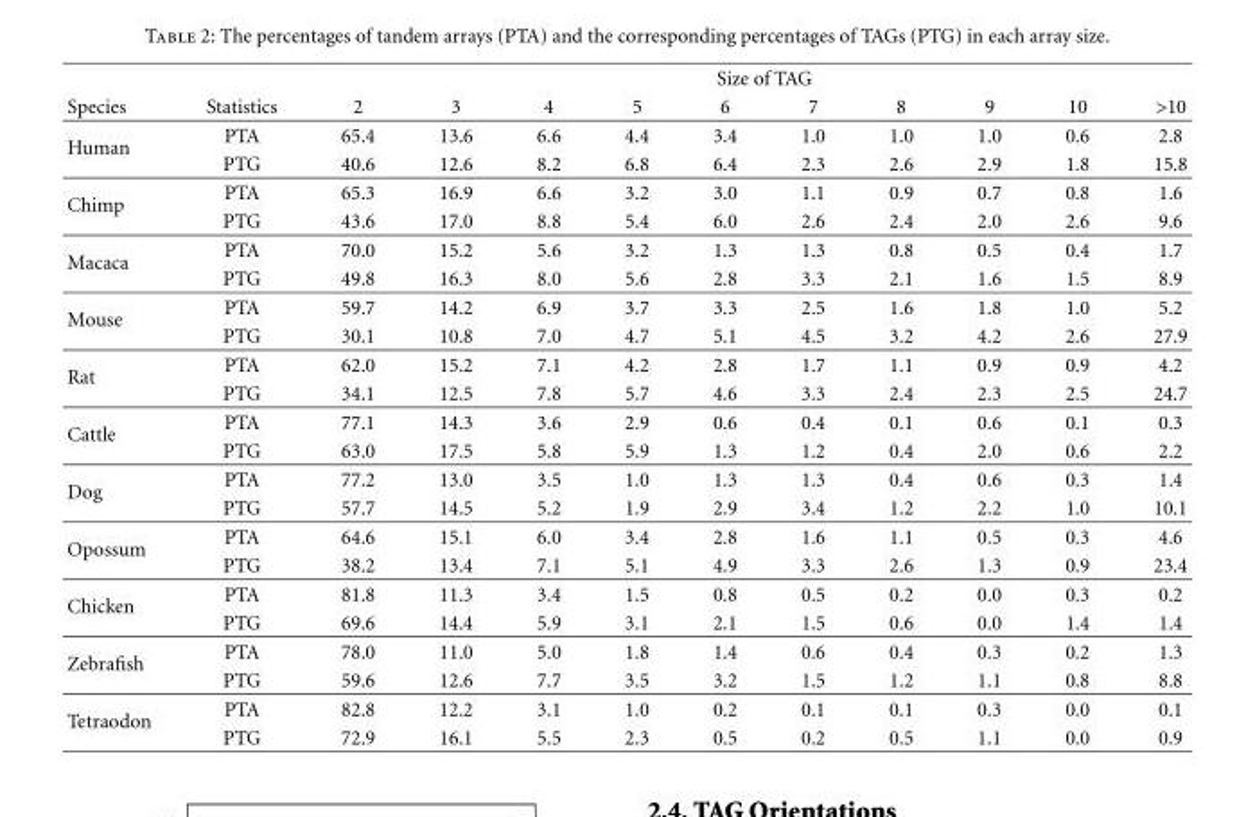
<table><thead><tr><td rowspan="2">Species</td><td rowspan="2">Statistics</td><td colspan="10">Size of TAG</td></tr><tr><td>2</td><td>3</td><td>4</td><td>5</td><td>6</td><td>7</td><td>8</td><td>9</td><td>10</td><td>&gt;10</td></tr></thead><tbody><tr><td rowspan="2">Human</td><td>PTA</td><td>65.4</td><td>13.6</td><td>6.6</td><td>4.4</td><td>3.4</td><td>1.0</td><td>1.0</td><td>1.0</td><td>0.6</td><td>2.8</td></tr><tr><td>PTG</td><td>40.6</td><td>12.6</td><td>8.2</td><td>6.8</td><td>6.4</td><td>2.3</td><td>2.6</td><td>2.9</td><td>1.8</td><td>15.8</td></tr><tr><td rowspan="2">Chimp</td><td>PTA</td><td>65.3</td><td>16.9</td><td>6.6</td><td>3.2</td><td>3.0</td><td>1.1</td><td>0.9</td><td>0.7</td><td>0.8</td><td>1.6</td></tr><tr><td>PTG</td><td>43.6</td><td>17.0</td><td>8.8</td><td>5.4</td><td>6.0</td><td>2.6</td><td>2.4</td><td>2.0</td><td>2.6</td><td>9.6</td></tr><tr><td rowspan="2">Macaca</td><td>PTA</td><td>70.0</td><td>15.2</td><td>5.6</td><td>3.2</td><td>1.3</td><td>1.3</td><td>0.8</td><td>0.5</td><td>0.4</td><td>1.7</td></tr><tr><td>PTG</td><td>49.8</td><td>16.3</td><td>8.0</td><td>5.6</td><td>2.8</td><td>3.3</td><td>2.1</td><td>1.6</td><td>1.5</td><td>8.9</td></tr><tr><td rowspan="2">Mouse</td><td>PTA</td><td>59.7</td><td>14.2</td><td>6.9</td><td>3.7</td><td>3.3</td><td>2.5</td><td>1.6</td><td>1.8</td><td>1.0</td><td>5.2</td></tr><tr><td>PTG</td><td>30.1</td><td>10.8</td><td>7.0</td><td>4.7</td><td>5.1</td><td>4.5</td><td>3.2</td><td>4.2</td><td>2.6</td><td>27.9</td></tr><tr><td rowspan="2">Rat</td><td>PTA</td><td>62.0</td><td>15.2</td><td>7.1</td><td>4.2</td><td>2.8</td><td>1.7</td><td>1.1</td><td>0.9</td><td>0.9</td><td>4.2</td></tr><tr><td>PTG</td><td>34.1</td><td>12.5</td><td>7.8</td><td>5.7</td><td>4.6</td><td>3.3</td><td>2.4</td><td>2.3</td><td>2.5</td><td>24.7</td></tr><tr><td rowspan="2">Cattle</td><td>PTA</td><td>77.1</td><td>14.3</td><td>3.6</td><td>2.9</td><td>0.6</td><td>0.4</td><td>0.1</td><td>0.6</td><td>0.1</td><td>0.3</td></tr><tr><td>PTG</td><td>63.0</td><td>17.5</td><td>5.8</td><td>5.9</td><td>1.3</td><td>1.2</td><td>0.4</td><td>2.0</td><td>0.6</td><td>2.2</td></tr><tr><td rowspan="2">Dog</td><td>PTA</td><td>77.2</td><td>13.0</td><td>3.5</td><td>1.0</td><td>1.3</td><td>1.3</td><td>0.4</td><td>0.6</td><td>0.3</td><td>1.4</td></tr><tr><td>PTG</td><td>57.7</td><td>14.5</td><td>5.2</td><td>1.9</td><td>2.9</td><td>3.4</td><td>1.2</td><td>2.2</td><td>1.0</td><td>10.1</td></tr><tr><td rowspan="2">Opossum</td><td>PTA</td><td>64.6</td><td>15.1</td><td>6.0</td><td>3.4</td><td>2.8</td><td>1.6</td><td>1.1</td><td>0.5</td><td>0.3</td><td>4.6</td></tr><tr><td>PTG</td><td>38.2</td><td>13.4</td><td>7.1</td><td>5.1</td><td>4.9</td><td>3.3</td><td>2.6</td><td>1.3</td><td>0.9</td><td>23.4</td></tr><tr><td rowspan="2">Chicken</td><td>PTA</td><td>81.8</td><td>11.3</td><td>3.4</td><td>1.5</td><td>0.8</td><td>0.5</td><td>0.2</td><td>0.0</td><td>0.3</td><td>0.2</td></tr><tr><td>PTG</td><td>69.6</td><td>14.4</td><td>5.9</td><td>3.1</td><td>2.1</td><td>1.5</td><td>0.6</td><td>0.0</td><td>1.4</td><td>1.4</td></tr><tr><td rowspan="2">Zebrafish</td><td>PTA</td><td>78.0</td><td>11.0</td><td>5.0</td><td>1.8</td><td>1.4</td><td>0.6</td><td>0.4</td><td>0.3</td><td>0.2</td><td>1.3</td></tr><tr><td>PTG</td><td>59.6</td><td>12.6</td><td>7.7</td><td>3.5</td><td>3.2</td><td>1.5</td><td>1.2</td><td>1.1</td><td>0.8</td><td>8.8</td></tr><tr><td rowspan="2">Tetraodon</td><td>PTA</td><td>82.8</td><td>12.2</td><td>3.1</td><td>1.0</td><td>0.2</td><td>0.1</td><td>0.1</td><td>0.3</td><td>0.0</td><td>0.1</td></tr><tr><td>PTG</td><td>72.9</td><td>16.1</td><td>5.5</td><td>2.3</td><td>0.5</td><td>0.2</td><td>0.5</td><td>1.1</td><td>0.0</td><td>0.9</td></tr></tbody></table>